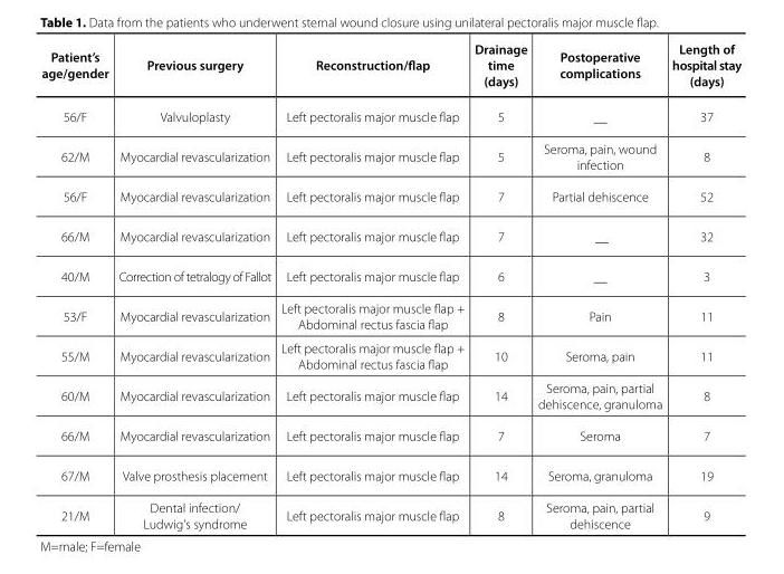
<table><thead><tr><td>Patient’s age/gender</td><td>Previous surgery</td><td>Reconstruction/flap</td><td>Drainage time (days)</td><td>Postoperative complications</td><td>Length of hospital stay (days)</td></tr></thead><tbody><tr><td>56/F</td><td>Valvuloplasty</td><td>Left pectoralis major muscle flap</td><td>5</td><td>__</td><td>37</td></tr><tr><td>62/M</td><td>Myocardial revascularization</td><td>Left pectoralis major muscle flap</td><td>5</td><td>Seroma, pain, wound infection</td><td>8</td></tr><tr><td>56/F</td><td>Myocardial revascularization</td><td>Left pectoralis major muscle flap</td><td>7</td><td>Partial dehiscence</td><td>52</td></tr><tr><td>66/M</td><td>Myocardial revascularization</td><td>Left pectoralis major muscle flap</td><td>7</td><td>__</td><td>32</td></tr><tr><td>40/M</td><td>Correction of tetralogy of Fallot</td><td>Left pectoralis major muscle flap</td><td>6</td><td>__</td><td>3</td></tr><tr><td>53/F</td><td>Myocardial revascularization</td><td>Left pectoralis major muscle flap + Abdominal rectus fascia flap</td><td>8</td><td>Pain</td><td>11</td></tr><tr><td>55/M</td><td>Myocardial revascularization</td><td>Left pectoralis major muscle flap + Abdominal rectus fascia flap</td><td>10</td><td>Seroma, pain</td><td>11</td></tr><tr><td>60/M</td><td>Myocardial revascularization</td><td>Left pectoralis major muscle flap</td><td>14</td><td>Seroma, pain, partial dehiscence, granuloma</td><td>8</td></tr><tr><td>66/M</td><td>Myocardial revascularization</td><td>Left pectoralis major muscle flap</td><td>7</td><td>Seroma</td><td>7</td></tr><tr><td>67/M</td><td>Valve prosthesis placement</td><td>Left pectoralis major muscle flap</td><td>14</td><td>Seroma, granuloma</td><td>19</td></tr><tr><td>21/M</td><td>Dental infection/ Ludwig&#x27;s syndrome</td><td>Left pectoralis major muscle flap</td><td>8</td><td>Seroma, pain, partial dehiscence</td><td>9</td></tr></tbody></table>